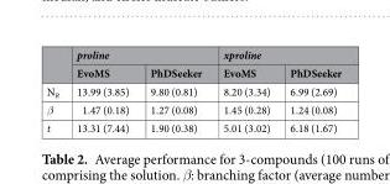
<table><thead><tr><td rowspan="2"></td><td colspan="2">proline</td><td colspan="2">xproline</td></tr><tr><td>EvoMS</td><td>PhDSeeker</td><td>EvoMS</td><td>PhDSeeker</td></tr></thead><tbody><tr><td>N<sub>R</sub></td><td>13.99 (3.85)</td><td>9.80 (0.81)</td><td>8.20 (3.34)</td><td>6.99 (2.69)</td></tr><tr><td>β</td><td>1.47 (0.18)</td><td>1.27 (0.08)</td><td>1.45 (0.28)</td><td>1.24 (0.08)</td></tr><tr><td>t</td><td>13.31 (7.44)</td><td>1.90 (0.38)</td><td>5.01 (3.02)</td><td>6.18 (1.67)</td></tr></tbody></table>